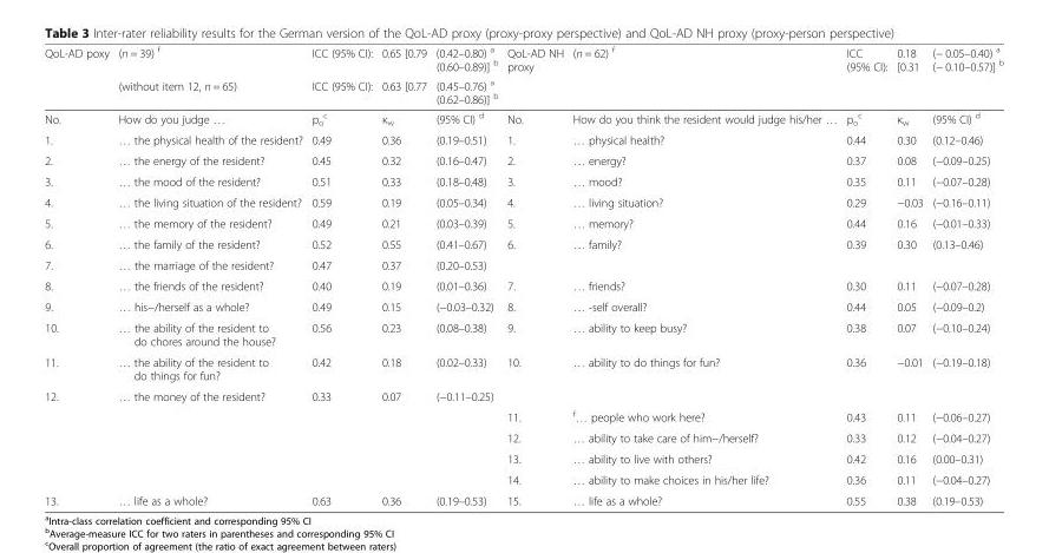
<table><thead><tr><td rowspan="2">QoL-AD poxy</td><td rowspan="2">(n = 39) <sup>f</sup> (without item 12, n = 65)</td><td rowspan="2">ICC (95% CI): ICC (95% CI):</td><td rowspan="2">0.65 [0.79 0.63 [0.77</td><td rowspan="2">(0.42–0.80) <sup>a</sup> (0.60–0.89)] <sup>b</sup> (0.45–0.76) <sup>a</sup> (0.62–0.86)] <sup>b</sup></td><td rowspan="2">QoL-AD NH proxy</td><td rowspan="2">(n = 62) <sup>f</sup></td><td rowspan="2">ICC (95% CI):</td><td rowspan="2">0.18 [0.31</td><td rowspan="2">(− 0.05–0.40) <sup>a</sup> (− 0.10–0.57)] <sup>b</sup></td></tr><tr></tr></thead><tbody><tr><td>No.</td><td>How do you judge …</td><td>p<sub>o</sub> <sup>c</sup></td><td>κ<sub>w</sub></td><td>(95% CI) <sup>d</sup></td><td>No.</td><td>How do you think the resident would judge his/her …</td><td>p<sub>o</sub> <sup>c</sup></td><td>κ<sub>w</sub></td><td>(95% CI) <sup>d</sup></td></tr><tr><td>1.</td><td>… the physical health of the resident?</td><td>0.49</td><td>0.36</td><td>(0.19–0.51)</td><td>1.</td><td>… physical health?</td><td>0.44</td><td>0.30</td><td>(0.12–0.46)</td></tr><tr><td>2.</td><td>… the energy of the resident?</td><td>0.45</td><td>0.32</td><td>(0.16–0.47)</td><td>2.</td><td>… energy?</td><td>0.37</td><td>0.08</td><td>(−0.09–0.25)</td></tr><tr><td>3.</td><td>… the mood of the resident?</td><td>0.51</td><td>0.33</td><td>(0.18–0.48)</td><td>3.</td><td>… mood?</td><td>0.35</td><td>0.11</td><td>(−0.07–0.28)</td></tr><tr><td>4.</td><td>… the living situation of the resident?</td><td>0.59</td><td>0.19</td><td>(0.05–0.34)</td><td>4.</td><td>… living situation?</td><td>0.29</td><td>−0.03</td><td>(−0.16–0.11)</td></tr><tr><td>5.</td><td>… the memory of the resident?</td><td>0.49</td><td>0.21</td><td>(0.03–0.39)</td><td>5.</td><td>… memory?</td><td>0.44</td><td>0.16</td><td>(−0.01–0.33)</td></tr><tr><td>6.</td><td>… the family of the resident?</td><td>0.52</td><td>0.55</td><td>(0.41–0.67)</td><td>6.</td><td>… family?</td><td>0.39</td><td>0.30</td><td>(0.13–0.46)</td></tr><tr><td>7.</td><td>… the marriage of the resident?</td><td>0.47</td><td>0.37</td><td>(0.20–0.53)</td><td></td><td></td><td></td><td></td><td></td></tr><tr><td>8.</td><td>… the friends of the resident?</td><td>0.40</td><td>0.19</td><td>(0.01–0.36)</td><td>7.</td><td>… friends?</td><td>0.30</td><td>0.11</td><td>(−0.07–0.28)</td></tr><tr><td>9.</td><td>… his−/herself as a whole?</td><td>0.49</td><td>0.15</td><td>(−0.03–0.32)</td><td>8.</td><td>… -self overall?</td><td>0.44</td><td>0.05</td><td>(−0.09–0.2)</td></tr><tr><td>10.</td><td>… the ability of the resident to do chores around the house?</td><td>0.56</td><td>0.23</td><td>(0.08–0.38)</td><td>9.</td><td>… ability to keep busy?</td><td>0.38</td><td>0.07</td><td>(−0.10–0.24)</td></tr><tr><td>11.</td><td>… the ability of the resident to do things for fun?</td><td>0.42</td><td>0.18</td><td>(0.02–0.33)</td><td>10.</td><td>… ability to do things for fun?</td><td>0.36</td><td>−0.01</td><td>(−0.19–0.18)</td></tr><tr><td rowspan="5">12.</td><td>… the money of the resident?</td><td>0.33</td><td>0.07</td><td>(−0.11–0.25)</td><td></td><td></td><td></td><td></td><td></td></tr><tr><td></td><td></td><td></td><td></td><td>11.</td><td><sup>f</sup>… people who work here?</td><td>0.43</td><td>0.11</td><td>(−0.06–0.27)</td></tr><tr><td></td><td></td><td></td><td></td><td>12.</td><td>… ability to take care of him−/herself?</td><td>0.33</td><td>0.12</td><td>(−0.04–0.27)</td></tr><tr><td></td><td></td><td></td><td></td><td>13.</td><td>… ability to live with others?</td><td>0.42</td><td>0.16</td><td>(0.00–0.31)</td></tr><tr><td></td><td></td><td></td><td></td><td>14.</td><td>… ability to make choices in his/her life?</td><td>0.36</td><td>0.11</td><td>(−0.04–0.27)</td></tr><tr><td>13.</td><td>… life as a whole?</td><td>0.63</td><td>0.36</td><td>(0.19–0.53)</td><td>15.</td><td>… life as a whole?</td><td>0.55</td><td>0.38</td><td>(0.19–0.53)</td></tr></tbody></table>